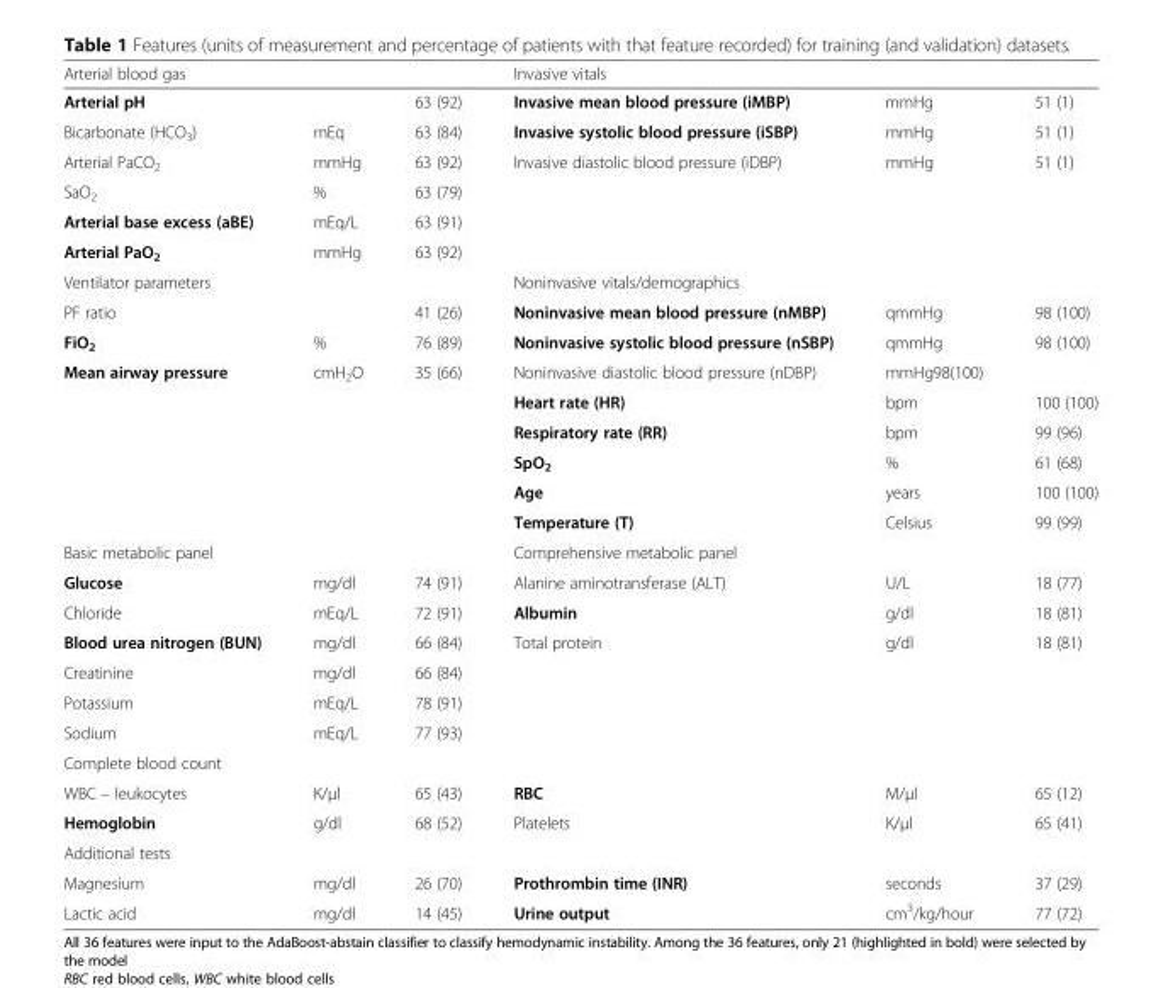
<table><thead><tr><td colspan="3">Arterial blood gas</td><td colspan="3">Invasive vitals</td></tr><tr><td>Arterial pH</td><td></td><td>63 (92)</td><td>Invasive mean blood pressure (iMBP)</td><td>mmHg</td><td>51 (1)</td></tr></thead><tbody><tr><td>Bicarbonate (HCO<sub>3</sub>)</td><td>mEq</td><td>63 (84)</td><td>Invasive systolic blood pressure (iSBP)</td><td>mmHg</td><td>51 (1)</td></tr><tr><td>Arterial PaCO<sub>2</sub></td><td>mmHg</td><td>63 (92)</td><td>Invasive diastolic blood pressure (iDBP)</td><td>mmHg</td><td>51 (1)</td></tr><tr><td>SaO<sub>2</sub></td><td>%</td><td>63 (79)</td><td></td><td></td><td></td></tr><tr><td>Arterial base excess (aBE)</td><td>mEq/L</td><td>63 (91)</td><td></td><td></td><td></td></tr><tr><td>Arterial PaO<sub>2</sub></td><td>mmHg</td><td>63 (92)</td><td></td><td></td><td></td></tr><tr><td colspan="3">Ventilator parameters</td><td colspan="3">Noninvasive vitals/demographics</td></tr><tr><td>PF ratio</td><td></td><td>41 (26)</td><td>Noninvasive mean blood pressure (nMBP)</td><td>qmmHg</td><td>98 (100)</td></tr><tr><td>FiO<sub>2</sub></td><td>%</td><td>76 (89)</td><td>Noninvasive systolic blood pressure (nSBP)</td><td>qmmHg</td><td>98 (100)</td></tr><tr><td rowspan="6">Mean airway pressure</td><td>cmH<sub>2</sub>O</td><td>35 (66)</td><td>Noninvasive diastolic blood pressure (nDBP)</td><td>mmHg98(100)</td><td></td></tr><tr><td></td><td></td><td>Heart rate (HR)</td><td>bpm</td><td>100 (100)</td></tr><tr><td></td><td></td><td>Respiratory rate (RR)</td><td>bpm</td><td>99 (96)</td></tr><tr><td></td><td></td><td>SpO<sub>2</sub></td><td>%</td><td>61 (68)</td></tr><tr><td></td><td></td><td>Age</td><td>years</td><td>100 (100)</td></tr><tr><td></td><td></td><td>Temperature (T)</td><td>Celsius</td><td>99 (99)</td></tr><tr><td colspan="3">Basic metabolic panel</td><td colspan="3">Comprehensive metabolic panel</td></tr><tr><td>Glucose</td><td>mg/dl</td><td>74 (91)</td><td>Alanine aminotransferase (ALT)</td><td>U/L</td><td>18 (77)</td></tr><tr><td>Chloride</td><td>mEq/L</td><td>72 (91)</td><td>Albumin</td><td>g/dl</td><td>18 (81)</td></tr><tr><td>Blood urea nitrogen (BUN)</td><td>mg/dl</td><td>66 (84)</td><td>Total protein</td><td>g/dl</td><td>18 (81)</td></tr><tr><td>Creatinine</td><td>mg/dl</td><td>66 (84)</td><td></td><td></td><td></td></tr><tr><td>Potassium</td><td>mEq/L</td><td>78 (91)</td><td></td><td></td><td></td></tr><tr><td>Sodium</td><td>mEq/L</td><td>77 (93)</td><td></td><td></td><td></td></tr><tr><td colspan="6">Complete blood count</td></tr><tr><td>WBC – leukocytes</td><td>K/μl</td><td>65 (43)</td><td>RBC</td><td>M/μl</td><td>65 (12)</td></tr><tr><td>Hemoglobin</td><td>g/dl</td><td>68 (52)</td><td>Platelets</td><td>K/μl</td><td>65 (41)</td></tr><tr><td colspan="6">Additional tests</td></tr><tr><td>Magnesium</td><td>mg/dl</td><td>26 (70)</td><td>Prothrombin time (INR)</td><td>seconds</td><td>37 (29)</td></tr><tr><td>Lactic acid</td><td>mg/dl</td><td>14 (45)</td><td>Urine output</td><td>cm<sup>3</sup>/kg/hour</td><td>77 (72)</td></tr></tbody></table>